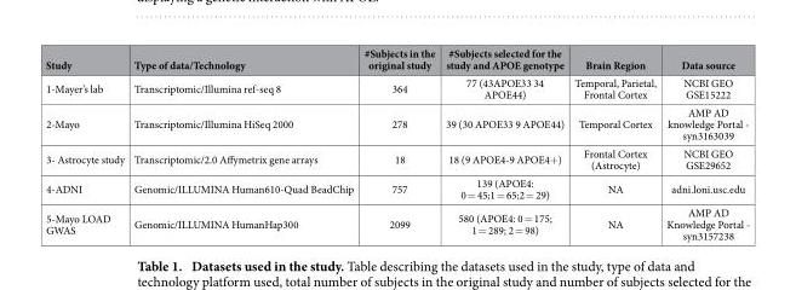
<table><thead><tr><td>Study</td><td>Type of data/Technology</td><td>#Subjects in the original study</td><td>#Subjects selected for the study and APOE genotype</td><td>Brain Region</td><td>Data source</td></tr></thead><tbody><tr><td>1-Mayer’s lab</td><td>Transcriptomic/Illumina ref-seq 8</td><td>364</td><td>77 (43APOE33 34 APOE44)</td><td>Temporal, Parietal, Frontal Cortex</td><td>NCBI GEO GSE15222</td></tr><tr><td>2-Mayo</td><td>Transcriptomic/Illumina HiSeq 2000</td><td>278</td><td>39 (30 APOE33 9 APOE44)</td><td>Temporal Cortex</td><td>AMP AD knowledge Portal - syn3163039</td></tr><tr><td>3- Astrocyte study</td><td>Transcriptomic/2.0 Affymetrix gene arrays</td><td>18</td><td>18 (9 APOE4-9 APOE4+ )</td><td>Frontal Cortex (Astrocyte)</td><td>NCBI GEO GSE29652</td></tr><tr><td>4-ADNI</td><td>Genomic/ILLUMINA Human610-Quad BeadChip</td><td>757</td><td>139 (APOE4: 0 = 45;1 = 65;2 = 29)</td><td>NA</td><td>adni.loni.usc.edu</td></tr><tr><td>5-Mayo LOAD GWAS</td><td>Genomic/ILLUMINA HumanHap300</td><td>2099</td><td>580 (APOE4: 0 = 175; 1 = 289; 2 = 98)</td><td>NA</td><td>AMP AD Knowledge Portal - syn3157238</td></tr></tbody></table>